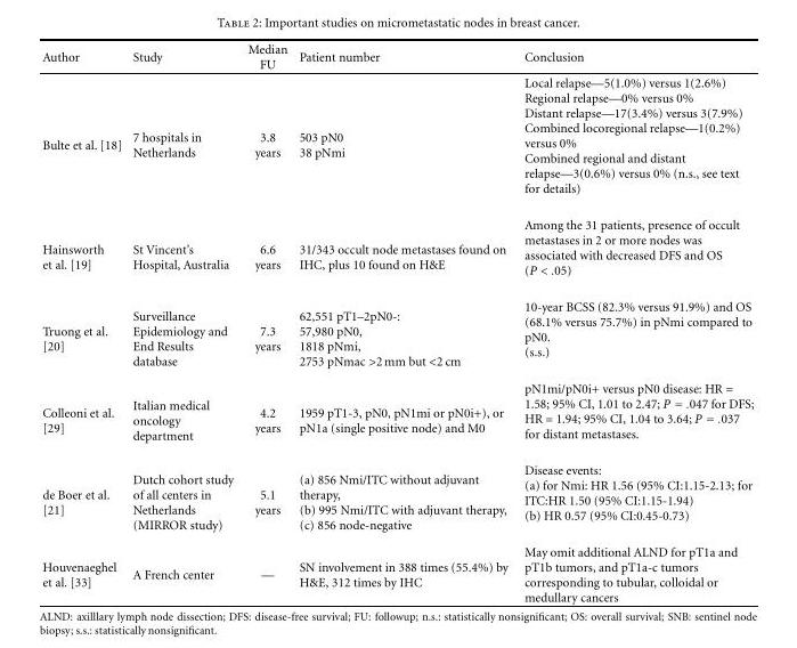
<table><thead><tr><td>Author</td><td>Study</td><td>Median FU</td><td>Patient number</td><td>Conclusion</td></tr></thead><tbody><tr><td>Bulte et al. [18]</td><td>7 hospitals in Netherlands</td><td>3.8 years</td><td>503 pN0 38 pNmi</td><td>Local relapse—5(1.0%) versus 1(2.6%) Regional relapse—0% versus 0% Distant relapse—17(3.4%) versus 3(7.9%) Combined locoregional relapse—1(0.2%) versus 0% Combined regional and distant relapse—3(0.6%) versus 0% (n.s., see text for details)</td></tr><tr><td>Hainsworth et al. [19]</td><td>St Vincent’s Hospital, Australia</td><td>6.6 years</td><td>31/343 occult node metastases found on IHC, plus 10 found on H&amp;E</td><td>Among the 31 patients, presence of occult metastases in 2 or more nodes was associated with decreased DFS and OS (P &lt; .05)</td></tr><tr><td>Truong et al. [20]</td><td>Surveillance Epidemiology and End Results database</td><td>7.3 years</td><td>62,551 pT1–2pN0-: 57,980 pN0, 1818 pNmi, 2753 pNmac &gt;2mm but &lt;2 cm</td><td>10-year BCSS (82.3% versus 91.9%) and OS (68.1% versus 75.7%) in pNmi compared to pN0. (s.s.)</td></tr><tr><td>Colleoni et al. [29]</td><td>Italian medical oncology department</td><td>4.2 years</td><td>1959 pT1-3, pN0, pN1mi or pN0i+), or pN1a (single positive node) and M0</td><td>pN1mi/pN0i+ versus pN0 disease: HR = 1.58; 95% CI, 1.01 to 2.47; P = .047 for DFS; HR = 1.94; 95% CI, 1.04 to 3.64; P = .037 for distant metastases.</td></tr><tr><td>de Boer et al. [21]</td><td>Dutch cohort study of all centers in Netherlands (MIRROR study)</td><td>5.1 years</td><td>(a) 856 Nmi/ITC without adjuvant therapy, (b) 995 Nmi/ITC with adjuvant therapy, (c) 856 node-negative</td><td>Disease events: (a) for Nmi: HR 1.56 (95% CI:1.15-2.13; for ITC:HR 1.50 (95% CI:1.15-1.94) (b) HR 0.57 (95% CI:0.45-0.73)</td></tr><tr><td>Houvenaeghel et al. [33]</td><td>A French center</td><td>—</td><td>SN involvement in 388 times (55.4%) by H&amp;E, 312 times by IHC</td><td>May omit additional ALND for pT1a and pT1b tumors, and pT1a-c tumors corresponding to tubular, colloidal or medullary cancers</td></tr></tbody></table>